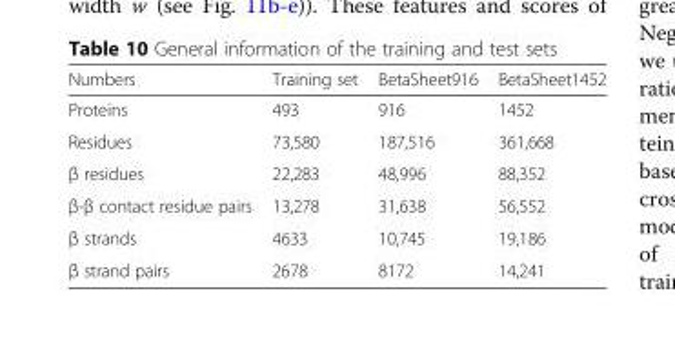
<table><thead><tr><td>Numbers</td><td>Training set</td><td>BetaSheet916</td><td>BetaSheet1452</td></tr></thead><tbody><tr><td>Proteins</td><td>493</td><td>916</td><td>1452</td></tr><tr><td>Residues</td><td>73,580</td><td>187,516</td><td>361,668</td></tr><tr><td>β residues</td><td>22,283</td><td>48,996</td><td>88,352</td></tr><tr><td>β-β contact residue pairs</td><td>13,278</td><td>31,638</td><td>56,552</td></tr><tr><td>β strands</td><td>4633</td><td>10,745</td><td>19,186</td></tr><tr><td>β strand pairs</td><td>2678</td><td>8172</td><td>14,241</td></tr></tbody></table>